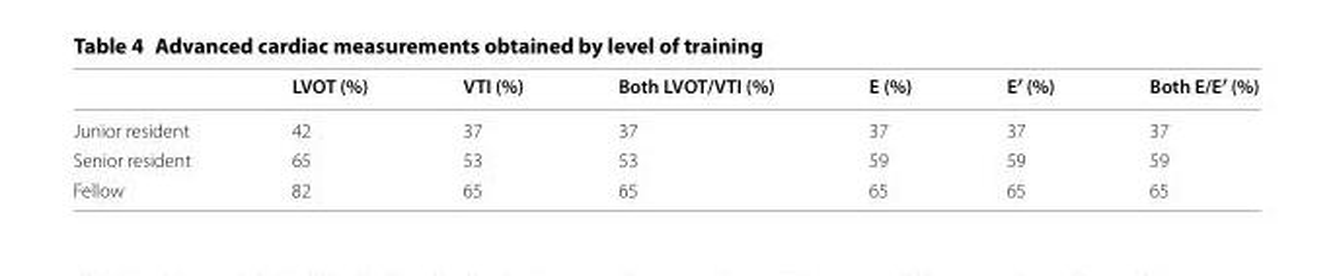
<table><thead><tr><td></td><td>LVOT (%)</td><td>VTI (%)</td><td>Both LVOT/VTI (%)</td><td>E (%)</td><td>E′ (%)</td><td>Both E/E′ (%)</td></tr></thead><tbody><tr><td>Junior resident</td><td>42</td><td>37</td><td>37</td><td>37</td><td>37</td><td>37</td></tr><tr><td>Senior resident</td><td>65</td><td>53</td><td>53</td><td>59</td><td>59</td><td>59</td></tr><tr><td>Fellow</td><td>82</td><td>65</td><td>65</td><td>65</td><td>65</td><td>65</td></tr></tbody></table>